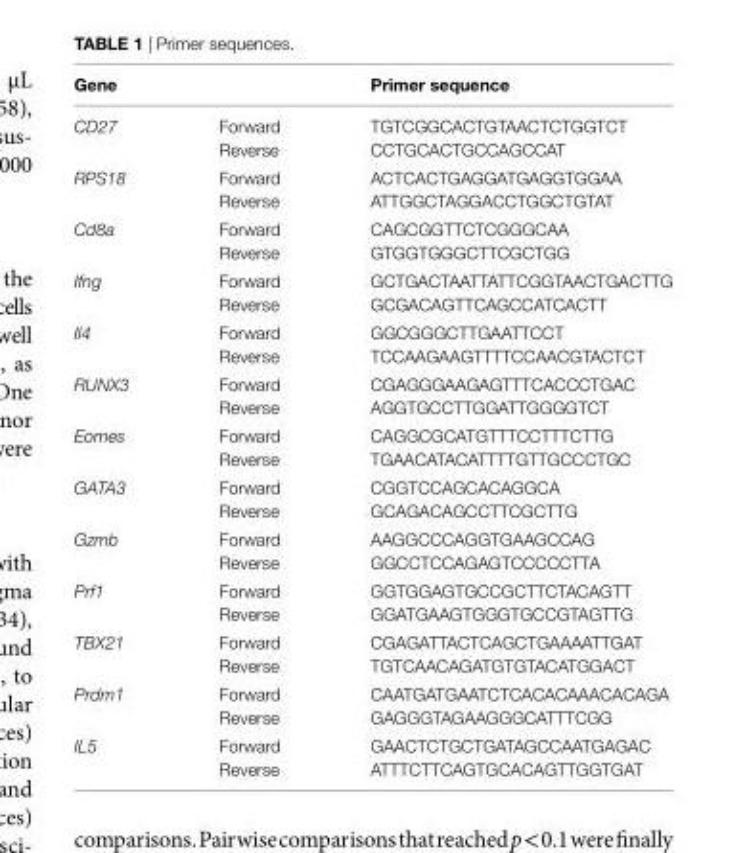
<table><thead><tr><td>gene</td><td></td><td>Primer sequence</td></tr></thead><tbody><tr><td rowspan="2">CD27</td><td>Forward</td><td>TGTCGGCACTGTAACTCTGGTCT</td></tr><tr><td>Reverse</td><td>CCTGCACTGCCAGCCAT</td></tr><tr><td rowspan="2">RPS18</td><td>Forward</td><td>ACTCACTGAGGATGAGGTGGAA</td></tr><tr><td>Reverse</td><td>ATTGGCTAGGACCTGGCTGTAT</td></tr><tr><td rowspan="2">Cd8a</td><td>Forward</td><td>CAGCGGTTCTCGGGCAA</td></tr><tr><td>Reverse</td><td>GTGGTGGGCTTCGCTGG</td></tr><tr><td rowspan="2">Ifng</td><td>Forward</td><td>GCTGACTAATTATTCGGTAACTGACTTG</td></tr><tr><td>Reverse</td><td>GCGACAGTTCAGCCATCACTT</td></tr><tr><td rowspan="2">Il4</td><td>Forward</td><td>GGCGGGCTTGAATTCCT</td></tr><tr><td>Reverse</td><td>TCCAAGAAGTTTTCCAACGTACTCT</td></tr><tr><td rowspan="2">RUNX3</td><td>Forward</td><td>CGAGGGAAGAGTTTCACCCTGAC</td></tr><tr><td>Reverse</td><td>AGGTGCCTTGGATTGGGGTCT</td></tr><tr><td rowspan="2">Eomes</td><td>Forward</td><td>CAGGCGCATGTTTCCTTTCTTG</td></tr><tr><td>Reverse</td><td>TGAACATACATTTTGTTGCCCTGC</td></tr><tr><td rowspan="2">GATA3</td><td>Forward</td><td>CGGTCCAGCACAGGCA</td></tr><tr><td>Reverse</td><td>GCAGACAGCCTTCGCTTG</td></tr><tr><td rowspan="2">Gzmb</td><td>Forward</td><td>AAGGCCCAGGTGAAGCCAG</td></tr><tr><td>Reverse</td><td>GGCCTCCAGAGTCCCCCTTA</td></tr><tr><td rowspan="2">Prf1</td><td>Forward</td><td>GGTGGAGTGCCGCTTCTACAGTT</td></tr><tr><td>Reverse</td><td>GGATGAAGTGGGTGCCGTAGTTG</td></tr><tr><td rowspan="2">TBX21</td><td>Forward</td><td>CGAGATTACTCAGCTGAAAATTGAT</td></tr><tr><td>Reverse</td><td>TGTCAACAGATGTGTACATGGACT</td></tr><tr><td rowspan="2">Prdm1</td><td>Forward</td><td>CAATGATGAATCTCACACAAACACAGA</td></tr><tr><td>Reverse</td><td>GAGGGTAGAAGGGCATTTCGG</td></tr><tr><td rowspan="2">IL5</td><td>Forward</td><td>GAACTCTGCTGATAGCCAATGAGAC</td></tr><tr><td>Reverse</td><td>ATTTCTTCAGTGCACAGTTGGTGAT</td></tr></tbody></table>